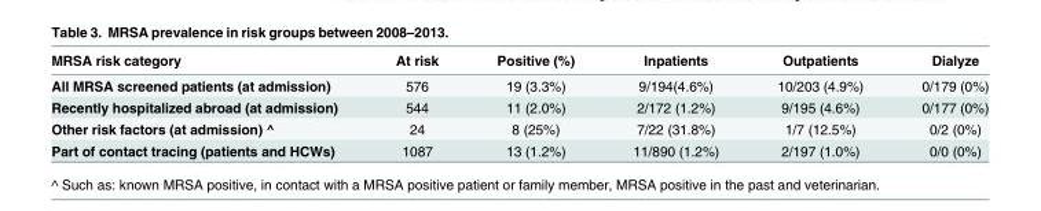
<table><thead><tr><td>MRSA risk category</td><td>At risk</td><td>Positive (%)</td><td>Inpatients</td><td>Outpatients</td><td>Dialyze</td></tr></thead><tbody><tr><td>All MRSA screened patients (at admission)</td><td>576</td><td>19 (3.3%)</td><td>9/194(4.6%)</td><td>10/203 (4.9%)</td><td>0/179 (0%)</td></tr><tr><td>Recently hospitalized abroad (at admission)</td><td>544</td><td>11 (2.0%)</td><td>2/172 (1.2%)</td><td>9/195 (4.6%)</td><td>0/177 (0%)</td></tr><tr><td>Other risk factors (at admission) ^</td><td>24</td><td>8 (25%)</td><td>7/22 (31.8%)</td><td>1/7 (12.5%)</td><td>0/2 (0%)</td></tr><tr><td>Part of contact tracing (patients and HCWs)</td><td>1087</td><td>13 (1.2%)</td><td>11/890 (1.2%)</td><td>2/197 (1.0%)</td><td>0/0 (0%)</td></tr></tbody></table>